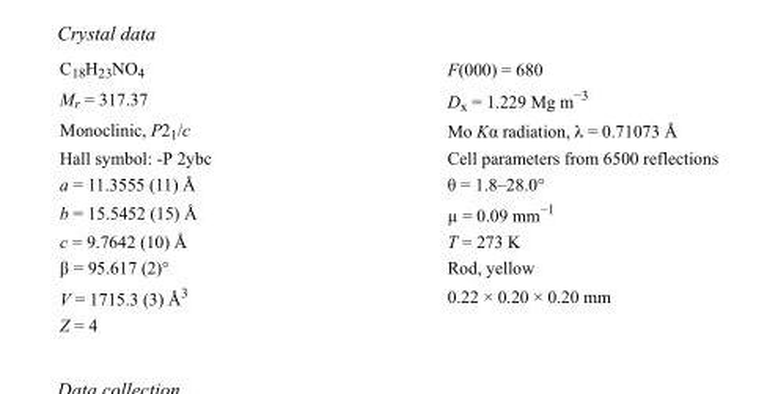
<table><tbody><tr><td>C<sub>18</sub>H<sub>23</sub>NO<sub>4</sub></td><td>F(000) = 680</td></tr><tr><td>M<sub>r</sub> = 317.37</td><td>D<sub>x</sub> = 1.229 Mg m<sup>−3</sup></td></tr><tr><td>Monoclinic, P2<sub>1</sub>/c</td><td>Mo Kα radiation, λ = 0.71073 Å</td></tr><tr><td>Hall symbol: -P 2ybc</td><td>Cell parameters from 6500 reflections</td></tr><tr><td>a = 11.3555 (11) Å</td><td>θ = 1.8–28.0°</td></tr><tr><td>b = 15.5452 (15) Å</td><td>µ = 0.09 mm<sup>−1</sup></td></tr><tr><td>c = 9.7642 (10) Å</td><td>T = 273 K</td></tr><tr><td>β = 95.617 (2)°</td><td>Rod, yellow</td></tr><tr><td>V = 1715.3 (3) Å<sup>3</sup></td><td>0.22 × 0.20 × 0.20 mm</td></tr><tr><td>Z = 4</td><td></td></tr></tbody></table>